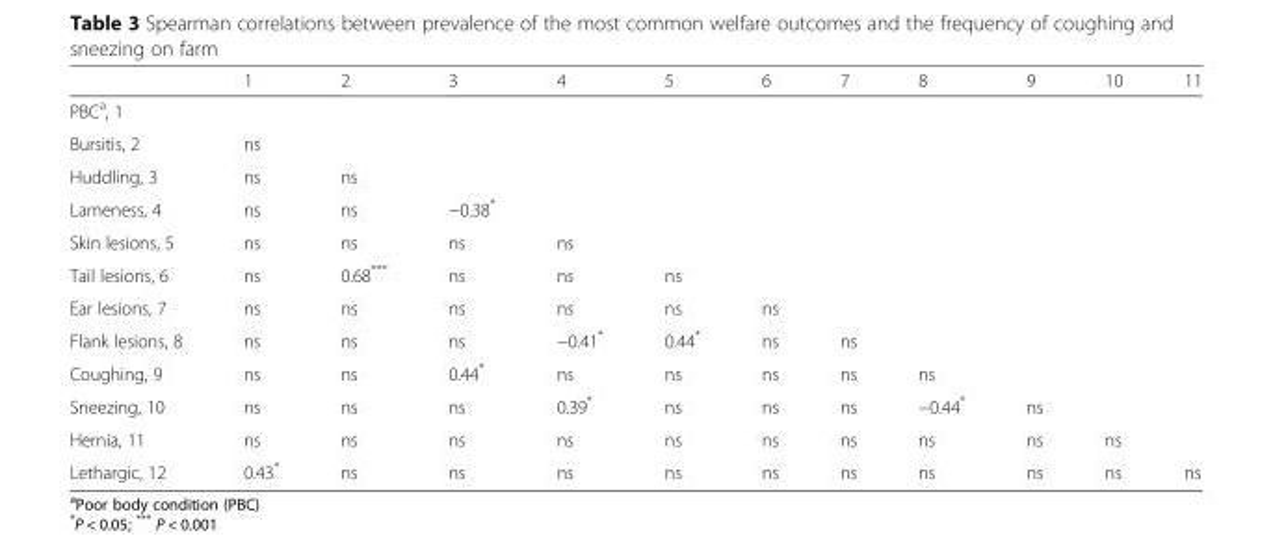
<table><thead><tr><td></td><td>1</td><td>2</td><td>3</td><td>4</td><td>5</td><td>6</td><td>7</td><td>8</td><td>9</td><td>10</td><td>11</td></tr></thead><tbody><tr><td colspan="12">PBC<sup>a</sup>, 1</td></tr><tr><td>Bursitis, 2</td><td>ns</td><td></td><td></td><td></td><td></td><td></td><td></td><td></td><td></td><td></td><td></td></tr><tr><td>Huddling, 3</td><td>ns</td><td>ns</td><td></td><td></td><td></td><td></td><td></td><td></td><td></td><td></td><td></td></tr><tr><td>Lameness, 4</td><td>ns</td><td>ns</td><td>−0.38*</td><td></td><td></td><td></td><td></td><td></td><td></td><td></td><td></td></tr><tr><td>Skin lesions, 5</td><td>ns</td><td>ns</td><td>ns</td><td>ns</td><td></td><td></td><td></td><td></td><td></td><td></td><td></td></tr><tr><td>Tail lesions, 6</td><td>ns</td><td>0.68***</td><td>ns</td><td>ns</td><td>ns</td><td></td><td></td><td></td><td></td><td></td><td></td></tr><tr><td>Ear lesions, 7</td><td>ns</td><td>ns</td><td>ns</td><td>ns</td><td>ns</td><td>ns</td><td></td><td></td><td></td><td></td><td></td></tr><tr><td>Flank lesions, 8</td><td>ns</td><td>ns</td><td>ns</td><td>−0.41*</td><td>0.44*</td><td>ns</td><td>ns</td><td></td><td></td><td></td><td></td></tr><tr><td>Coughing, 9</td><td>ns</td><td>ns</td><td>0.44*</td><td>ns</td><td>ns</td><td>ns</td><td>ns</td><td>ns</td><td></td><td></td><td></td></tr><tr><td>Sneezing, 10</td><td>ns</td><td>ns</td><td>ns</td><td>0.39*</td><td>ns</td><td>ns</td><td>ns</td><td>−0.44*</td><td>ns</td><td></td><td></td></tr><tr><td>Hernia, 11</td><td>ns</td><td>ns</td><td>ns</td><td>ns</td><td>ns</td><td>ns</td><td>ns</td><td>ns</td><td>ns</td><td>ns</td><td></td></tr><tr><td>Lethargic, 12</td><td>0.43*</td><td>ns</td><td>ns</td><td>ns</td><td>ns</td><td>ns</td><td>ns</td><td>ns</td><td>ns</td><td>ns</td><td>ns</td></tr></tbody></table>